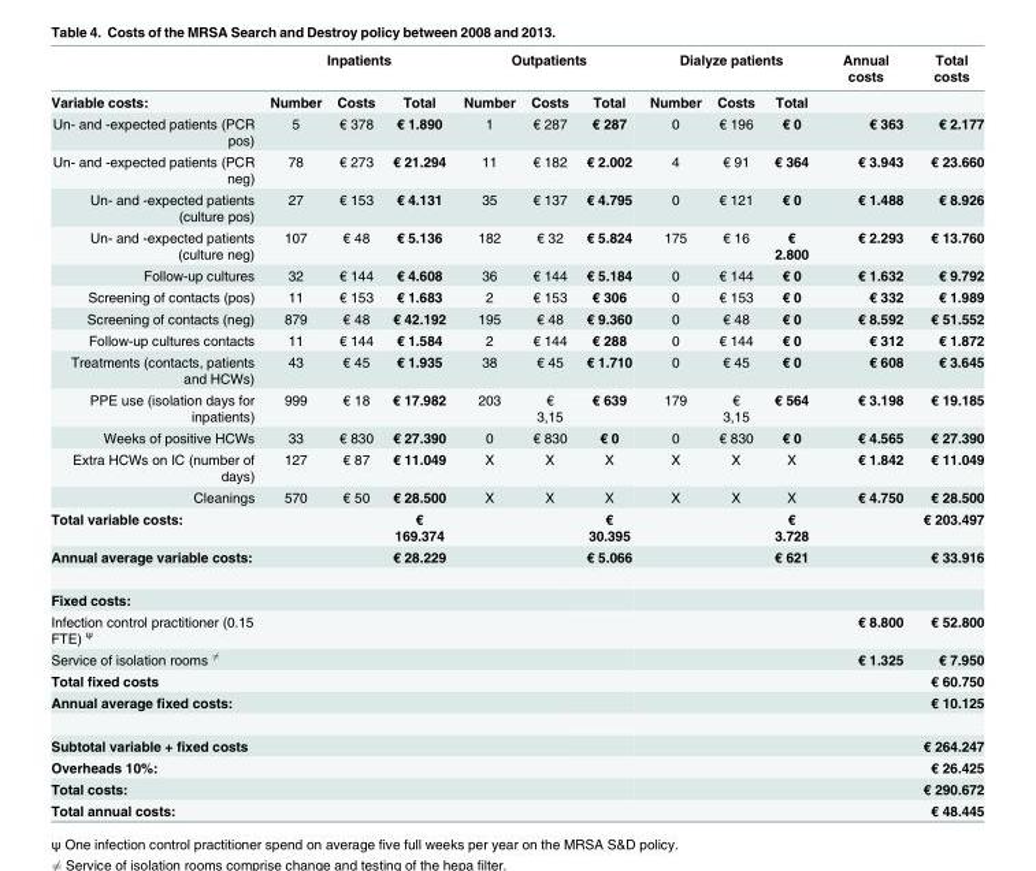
<table><thead><tr><td rowspan="2">Variable costs:</td><td colspan="3">Inpatients</td><td colspan="3">Outpatients</td><td colspan="3">Dialyze patients</td><td rowspan="2">Annual costs</td><td rowspan="2">Total costs</td></tr><tr><td>Number</td><td>Costs</td><td>Total</td><td>Number</td><td>Costs</td><td>Total</td><td>Number</td><td>Costs</td><td>Total</td></tr></thead><tbody><tr><td>Un- and -expected patients (PCR pos)</td><td>5</td><td>€ 378</td><td>€ 1.890</td><td>1</td><td>€ 287</td><td>€ 287</td><td>0</td><td>€ 196</td><td>€ 0</td><td>€ 363</td><td>€ 2.177</td></tr><tr><td>Un- and -expected patients (PCR neg)</td><td>78</td><td>€ 273</td><td>€ 21.294</td><td>11</td><td>€ 182</td><td>€ 2.002</td><td>4</td><td>€ 91</td><td>€ 364</td><td>€ 3.943</td><td>€ 23.660</td></tr><tr><td>Un- and -expected patients (culture pos)</td><td>27</td><td>€ 153</td><td>€ 4.131</td><td>35</td><td>€ 137</td><td>€ 4.795</td><td>0</td><td>€ 121</td><td>€ 0</td><td>€ 1.488</td><td>€ 8.926</td></tr><tr><td>Un- and -expected patients (culture neg)</td><td>107</td><td>€ 48</td><td>€ 5.136</td><td>182</td><td>€ 32</td><td>€ 5.824</td><td>175</td><td>€ 16</td><td>€ 2.800</td><td>€ 2.293</td><td>€ 13.760</td></tr><tr><td>Follow-up cultures</td><td>32</td><td>€ 144</td><td>€ 4.608</td><td>36</td><td>€ 144</td><td>€ 5.184</td><td>0</td><td>€ 144</td><td>€ 0</td><td>€ 1.632</td><td>€ 9.792</td></tr><tr><td>Screening of contacts (pos)</td><td>11</td><td>€ 153</td><td>€ 1.683</td><td>2</td><td>€ 153</td><td>€ 306</td><td>0</td><td>€ 153</td><td>€ 0</td><td>€ 332</td><td>€ 1.989</td></tr><tr><td>Screening of contacts (neg)</td><td>879</td><td>€ 48</td><td>€ 42.192</td><td>195</td><td>€ 48</td><td>€ 9.360</td><td>0</td><td>€ 48</td><td>€ 0</td><td>€ 8.592</td><td>€ 51.552</td></tr><tr><td>Follow-up cultures contacts</td><td>11</td><td>€ 144</td><td>€ 1.584</td><td>2</td><td>€ 144</td><td>€ 288</td><td>0</td><td>€ 144</td><td>€ 0</td><td>€ 312</td><td>€ 1.872</td></tr><tr><td>Treatments (contacts, patients and HCWs)</td><td>43</td><td>€ 45</td><td>€ 1.935</td><td>38</td><td>€ 45</td><td>€ 1.710</td><td>0</td><td>€ 45</td><td>€ 0</td><td>€ 608</td><td>€ 3.645</td></tr><tr><td>PPE use (isolation days for inpatients)</td><td>999</td><td>€ 18</td><td>€ 17.982</td><td>203</td><td>€ 3,15</td><td>€ 639</td><td>179</td><td>€ 3,15</td><td>€ 564</td><td>€ 3.198</td><td>€ 19.185</td></tr><tr><td>Weeks of positive HCWs</td><td>33</td><td>€ 830</td><td>€ 27.390</td><td>0</td><td>€ 830</td><td>€ 0</td><td>0</td><td>€ 830</td><td>€ 0</td><td>€ 4.565</td><td>€ 27.390</td></tr><tr><td>Extra HCWs on IC (number of days)</td><td>127</td><td>€ 87</td><td>€ 11.049</td><td>X</td><td>X</td><td>X</td><td>X</td><td>X</td><td>X</td><td>€ 1.842</td><td>€ 11.049</td></tr><tr><td>Cleanings</td><td>570</td><td>€ 50</td><td>€ 28.500</td><td>X</td><td>X</td><td>X</td><td>X</td><td>X</td><td>X</td><td>€ 4.750</td><td>€ 28.500</td></tr><tr><td>Total variable costs:</td><td></td><td></td><td>€ 169.374</td><td></td><td></td><td>€ 30.395</td><td></td><td></td><td>€ 3.728</td><td></td><td>€ 203.497</td></tr><tr><td>Annual average variable costs:</td><td></td><td></td><td>€ 28.229</td><td></td><td></td><td>€ 5.066</td><td></td><td></td><td>€ 621</td><td></td><td>€ 33.916</td></tr><tr><td colspan="12">Fixed costs:</td></tr><tr><td>Infection control practitioner (0.15 FTE) <sup>ψ</sup></td><td></td><td></td><td></td><td></td><td></td><td></td><td></td><td></td><td></td><td>€ 8.800</td><td>€ 52.800</td></tr><tr><td>Service of isolation rooms 6¼</td><td></td><td></td><td></td><td></td><td></td><td></td><td></td><td></td><td></td><td>€ 1.325</td><td>€ 7.950</td></tr><tr><td>Total fixed costs</td><td></td><td></td><td></td><td></td><td></td><td></td><td></td><td></td><td></td><td></td><td>€ 60.750</td></tr><tr><td>Annual average fixed costs:</td><td></td><td></td><td></td><td></td><td></td><td></td><td></td><td></td><td></td><td></td><td>€ 10.125</td></tr><tr><td>Subtotal variable + fixed costs</td><td></td><td></td><td></td><td></td><td></td><td></td><td></td><td></td><td></td><td></td><td>€ 264.247</td></tr><tr><td>Overheads 10%:</td><td></td><td></td><td></td><td></td><td></td><td></td><td></td><td></td><td></td><td></td><td>€ 26.425</td></tr><tr><td>Total costs:</td><td></td><td></td><td></td><td></td><td></td><td></td><td></td><td></td><td></td><td></td><td>€ 290.672</td></tr><tr><td>Total annual costs:</td><td></td><td></td><td></td><td></td><td></td><td></td><td></td><td></td><td></td><td></td><td>€ 48.445</td></tr></tbody></table>